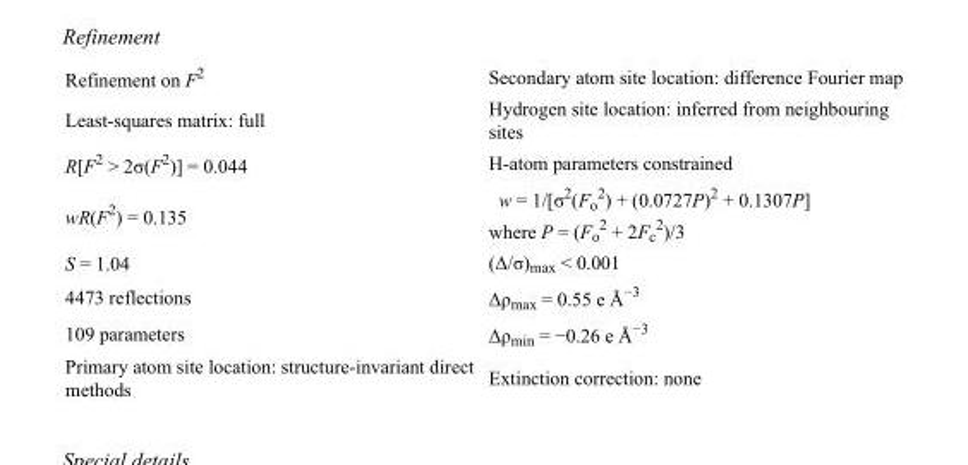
<table><tbody><tr><td>Refinement on F<sup>2</sup></td><td>Secondary atom site location: difference Fourier map</td></tr><tr><td>Least-squares matrix: full</td><td>Hydrogen site location: inferred from neighbouring sites</td></tr><tr><td>R[F<sup>2</sup> &gt; 2σ(F<sup>2</sup>)] = 0.044</td><td>H-atom parameters constrained</td></tr><tr><td>wR(F<sup>2</sup>) = 0.135</td><td>w = 1/[σ<sup>2</sup>(F<sub>o</sub> <sup>2</sup>) + (0.0727P)<sup>2</sup> + 0.1307P] where P = (F<sub>o</sub> <sup>2</sup> + 2F<sub>c</sub> <sup>2</sup>)/3</td></tr><tr><td>S = 1.04</td><td>(Δ/σ)<sub>max</sub> &lt; 0.001</td></tr><tr><td>4473 reflections</td><td>Δρ<sub>max</sub> = 0.55 e Å<sup>−3</sup></td></tr><tr><td>109 parameters</td><td>Δρ<sub>min</sub> = −0.26 e Å<sup>−3</sup></td></tr><tr><td>Primary atom site location: structure-invariant direct methods</td><td>Extinction correction: none</td></tr></tbody></table>